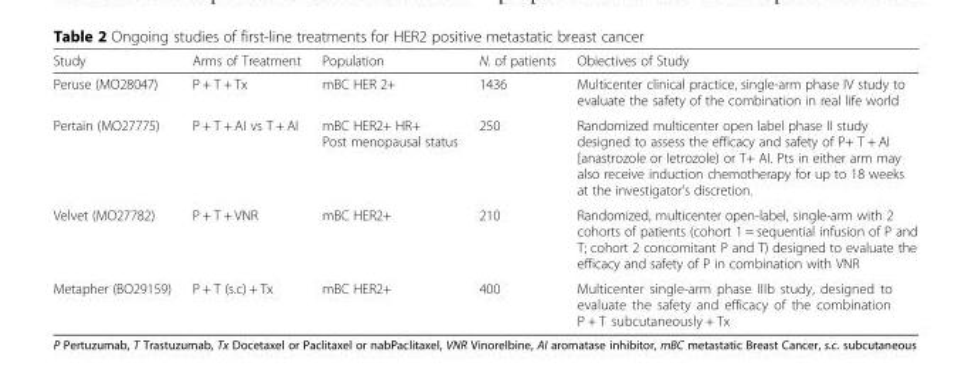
<table><thead><tr><td>Study</td><td>Arms of Treatment</td><td>Population</td><td>N. of patients</td><td>Obiectives of Study</td></tr></thead><tbody><tr><td>Peruse (MO28047)</td><td>P + T + Tx</td><td>mBC HER 2+</td><td>1436</td><td>Multicenter clinical practice, single-arm phase IV study to evaluate the safety of the combination in real life world</td></tr><tr><td>Pertain (MO27775)</td><td>P + T + AI vs T + AI</td><td>mBC HER2+ HR+ Post menopausal status</td><td>250</td><td>Randomized multicenter open label phase II study designed to assess the efficacy and safety of P+ T + AI [anastrozole or letrozole) or T+ AI. Pts in either arm may also receive induction chemotherapy for up to 18 weeks at the investigator’s discretion.</td></tr><tr><td>Velvet (MO27782)</td><td>P + T + VNR</td><td>mBC HER2+</td><td>210</td><td>Randomized, multicenter open-label, single-arm with 2 cohorts of patients (cohort 1 = sequential infusion of P and T; cohort 2 concomitant P and T) designed to evaluate the efficacy and safety of P in combination with VNR</td></tr><tr><td>Metapher (BO29159)</td><td>P + T (s.c) + Tx</td><td>mBC HER2+</td><td>400</td><td>Multicenter single-arm phase IIIb study, designed to evaluate the safety and efficacy of the combination P + T subcutaneously + Tx</td></tr></tbody></table>